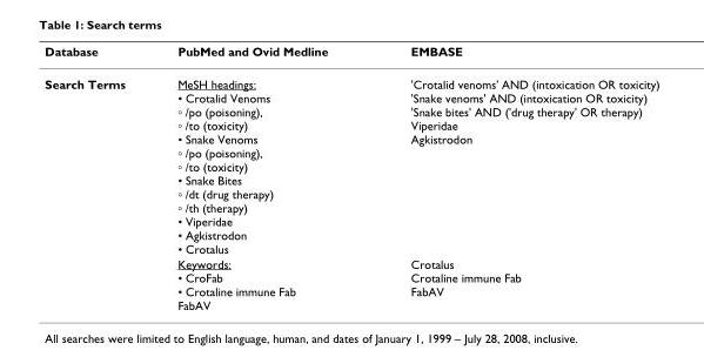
<table><thead><tr><td>Database</td><td>PubMed and Ovid Medline</td><td>EMBASE</td></tr></thead><tbody><tr><td rowspan="2">Search Terms</td><td>MeSH headings: • Crotalid Venoms ◦ /po (poisoning), ◦ /to (toxicity) • Snake Venoms ◦ /po (poisoning), ◦ /to (toxicity) • Snake Bites ◦ /dt (drug therapy) ◦ /th (therapy) • Viperidae • Agkistrodon • Crotalus</td><td>&#x27;Crotalid venoms&#x27; AND (intoxication OR toxicity) &#x27;Snake venoms&#x27; AND (intoxication OR toxicity) &#x27;Snake bites&#x27; AND (&#x27;drug therapy&#x27; OR therapy) Viperidae Agkistrodon</td></tr><tr><td>Keywords: • CroFab • Crotaline immune Fab FabAV</td><td>Crotalus Crotaline immune Fab FabAV</td></tr></tbody></table>